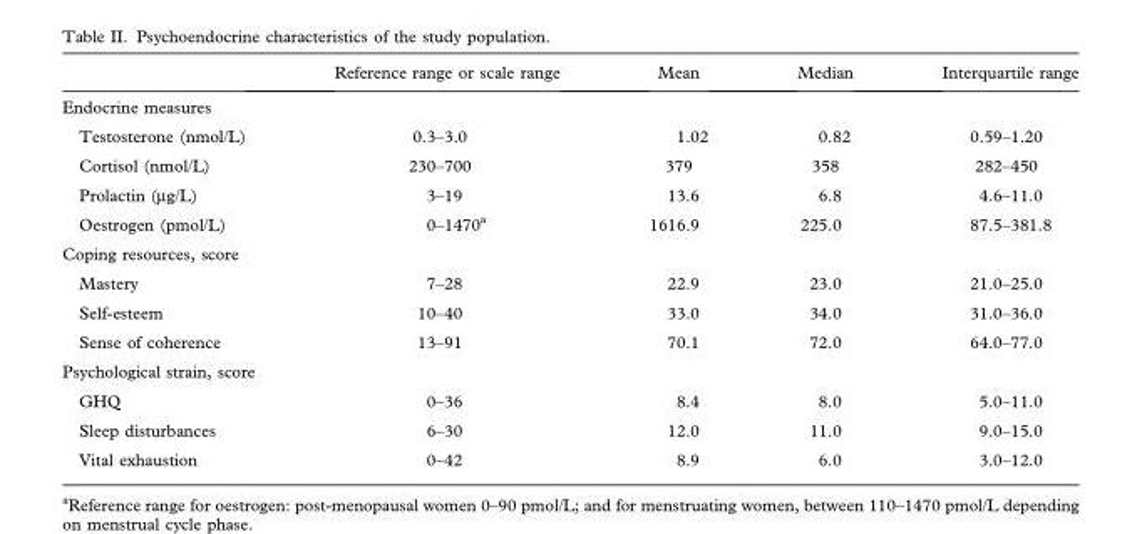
<table><thead><tr><td></td><td>Reference range or scale range</td><td>Mean</td><td>Median</td><td>Interquartile range</td></tr></thead><tbody><tr><td colspan="5">Endocrine measures</td></tr><tr><td>Testosterone (nmol/L)</td><td>0.3–3.0</td><td>1.02</td><td>0.82</td><td>0.59–1.20</td></tr><tr><td>Cortisol (nmol/L)</td><td>230–700</td><td>379</td><td>358</td><td>282–450</td></tr><tr><td>Prolactin (μg/L)</td><td>3–19</td><td>13.6</td><td>6.8</td><td>4.6–11.0</td></tr><tr><td>Oestrogen (pmol/L)</td><td>0–1470<sup>a</sup></td><td>1616.9</td><td>225.0</td><td>87.5–381.8</td></tr><tr><td colspan="5">Coping resources, score</td></tr><tr><td>Mastery</td><td>7–28</td><td>22.9</td><td>23.0</td><td>21.0–25.0</td></tr><tr><td>Self-esteem</td><td>10–40</td><td>33.0</td><td>34.0</td><td>31.0–36.0</td></tr><tr><td>Sense of coherence</td><td>13–91</td><td>70.1</td><td>72.0</td><td>64.0–77.0</td></tr><tr><td colspan="5">Psychological strain, score</td></tr><tr><td>GHQ</td><td>0–36</td><td>8.4</td><td>8.0</td><td>5.0–11.0</td></tr><tr><td>Sleep disturbances</td><td>6–30</td><td>12.0</td><td>11.0</td><td>9.0–15.0</td></tr><tr><td>Vital exhaustion</td><td>0–42</td><td>8.9</td><td>6.0</td><td>3.0–12.0</td></tr></tbody></table>